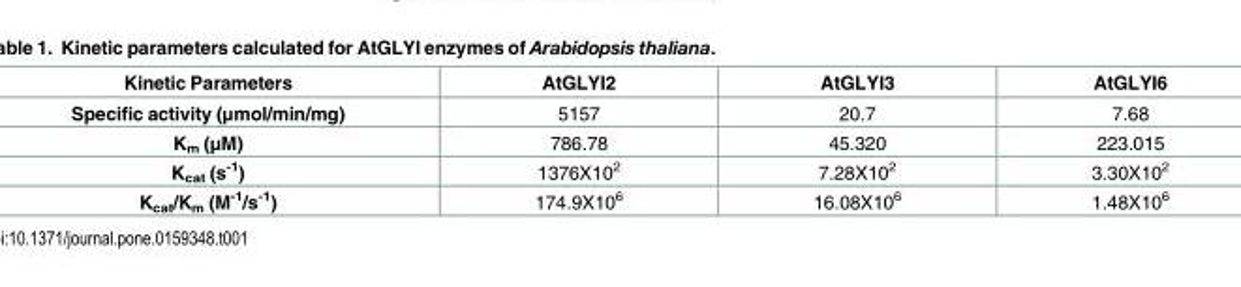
<table><thead><tr><td>Kinetic Parameters</td><td>AtGLYI2</td><td>AtGLYI3</td><td>AtGLYI6</td></tr></thead><tbody><tr><td>Specific activity (μmol/min/mg)</td><td>5157</td><td>20.7</td><td>7.68</td></tr><tr><td>K<sub>m</sub> (μM)</td><td>786.78</td><td>45.320</td><td>223.015</td></tr><tr><td>K<sub>cat</sub> (s<sup>-1</sup>)</td><td>1376X10<sup>2</sup></td><td>7.28X10<sup>2</sup></td><td>3.30X10<sup>2</sup></td></tr><tr><td>K<sub>cat</sub>/K<sub>m</sub> (M<sup>-1</sup>/s<sup>-1</sup>)</td><td>174.9X10<sup>6</sup></td><td>16.08X10<sup>6</sup></td><td>1.48X10<sup>6</sup></td></tr></tbody></table>